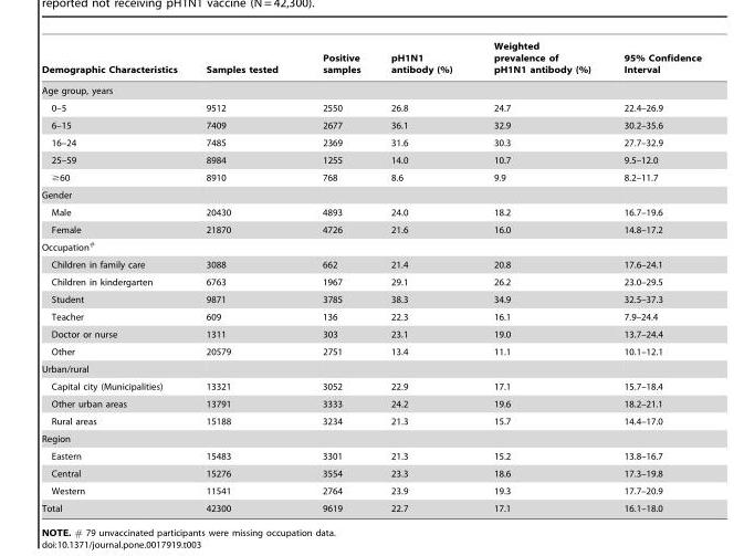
<table><thead><tr><td>Demographic Characteristics</td><td>Samples tested</td><td>Positive samples</td><td>pH1N1 antibody (%)</td><td>Weighted prevalence of pH1N1 antibody (%)</td><td>95% Confidence Interval</td></tr></thead><tbody><tr><td colspan="6">Age group, years</td></tr><tr><td>0–5</td><td>9512</td><td>2550</td><td>26.8</td><td>24.7</td><td>22.4–26.9</td></tr><tr><td>6–15</td><td>7409</td><td>2677</td><td>36.1</td><td>32.9</td><td>30.2–35.6</td></tr><tr><td>16–24</td><td>7485</td><td>2369</td><td>31.6</td><td>30.3</td><td>27.7–32.9</td></tr><tr><td>25–59</td><td>8984</td><td>1255</td><td>14.0</td><td>10.7</td><td>9.5–12.0</td></tr><tr><td>≥60</td><td>8910</td><td>768</td><td>8.6</td><td>9.9</td><td>8.2–11.7</td></tr><tr><td colspan="6">Gender</td></tr><tr><td>Male</td><td>20430</td><td>4893</td><td>24.0</td><td>18.2</td><td>16.7–19.6</td></tr><tr><td>Female</td><td>21870</td><td>4726</td><td>21.6</td><td>16.0</td><td>14.8–17.2</td></tr><tr><td colspan="6">Occupation<sup>#</sup></td></tr><tr><td>Children in family care</td><td>3088</td><td>662</td><td>21.4</td><td>20.8</td><td>17.6–24.1</td></tr><tr><td>Children in kindergarten</td><td>6763</td><td>1967</td><td>29.1</td><td>26.2</td><td>23.0–29.5</td></tr><tr><td>Student</td><td>9871</td><td>3785</td><td>38.3</td><td>34.9</td><td>32.5–37.3</td></tr><tr><td>Teacher</td><td>609</td><td>136</td><td>22.3</td><td>16.1</td><td>7.9–24.4</td></tr><tr><td>Doctor or nurse</td><td>1311</td><td>303</td><td>23.1</td><td>19.0</td><td>13.7–24.4</td></tr><tr><td>Other</td><td>20579</td><td>2751</td><td>13.4</td><td>11.1</td><td>10.1–12.1</td></tr><tr><td colspan="6">Urban/rural</td></tr><tr><td>Capital city (Municipalities)</td><td>13321</td><td>3052</td><td>22.9</td><td>17.1</td><td>15.7–18.4</td></tr><tr><td>Other urban areas</td><td>13791</td><td>3333</td><td>24.2</td><td>19.6</td><td>18.2–21.1</td></tr><tr><td>Rural areas</td><td>15188</td><td>3234</td><td>21.3</td><td>15.7</td><td>14.4–17.0</td></tr><tr><td colspan="6">Region</td></tr><tr><td>Eastern</td><td>15483</td><td>3301</td><td>21.3</td><td>15.2</td><td>13.8–16.7</td></tr><tr><td>Central</td><td>15276</td><td>3554</td><td>23.3</td><td>18.6</td><td>17.3–19.8</td></tr><tr><td>Western</td><td>11541</td><td>2764</td><td>23.9</td><td>19.3</td><td>17.7–20.9</td></tr><tr><td>Total</td><td>42300</td><td>9619</td><td>22.7</td><td>17.1</td><td>16.1–18.0</td></tr></tbody></table>